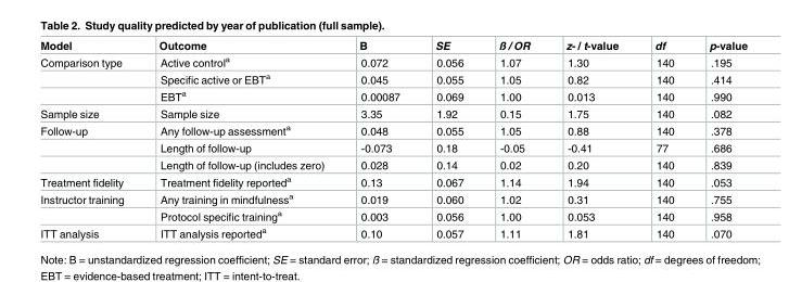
<table><thead><tr><td>Model</td><td>Outcome</td><td>B</td><td>SE</td><td>ß / OR</td><td>z- / t-value</td><td>df</td><td>p-value</td></tr></thead><tbody><tr><td rowspan="3">Comparison type</td><td>Active control<sup>a</sup></td><td>0.072</td><td>0.056</td><td>1.07</td><td>1.30</td><td>140</td><td>.195</td></tr><tr><td>Specific active or EBT<sup>a</sup></td><td>0.045</td><td>0.055</td><td>1.05</td><td>0.82</td><td>140</td><td>.414</td></tr><tr><td>EBT<sup>a</sup></td><td>0.00087</td><td>0.069</td><td>1.00</td><td>0.013</td><td>140</td><td>.990</td></tr><tr><td>Sample size</td><td>Sample size</td><td>3.35</td><td>1.92</td><td>0.15</td><td>1.75</td><td>140</td><td>.082</td></tr><tr><td rowspan="3">Follow-up</td><td>Any follow-up assessment<sup>a</sup></td><td>0.048</td><td>0.055</td><td>1.05</td><td>0.88</td><td>140</td><td>.378</td></tr><tr><td>Length of follow-up</td><td>-0.073</td><td>0.18</td><td>-0.05</td><td>-0.41</td><td>77</td><td>.686</td></tr><tr><td>Length of follow-up (includes zero)</td><td>0.028</td><td>0.14</td><td>0.02</td><td>0.20</td><td>140</td><td>.839</td></tr><tr><td>Treatment fidelity</td><td>Treatment fidelity reported<sup>a</sup></td><td>0.13</td><td>0.067</td><td>1.14</td><td>1.94</td><td>140</td><td>.053</td></tr><tr><td rowspan="2">Instructor training</td><td>Any training in mindfulness<sup>a</sup></td><td>0.019</td><td>0.060</td><td>1.02</td><td>0.31</td><td>140</td><td>.755</td></tr><tr><td>Protocol specific training<sup>a</sup></td><td>0.003</td><td>0.056</td><td>1.00</td><td>0.053</td><td>140</td><td>.958</td></tr><tr><td>ITT analysis</td><td>ITT analysis reported<sup>a</sup></td><td>0.10</td><td>0.057</td><td>1.11</td><td>1.81</td><td>140</td><td>.070</td></tr></tbody></table>